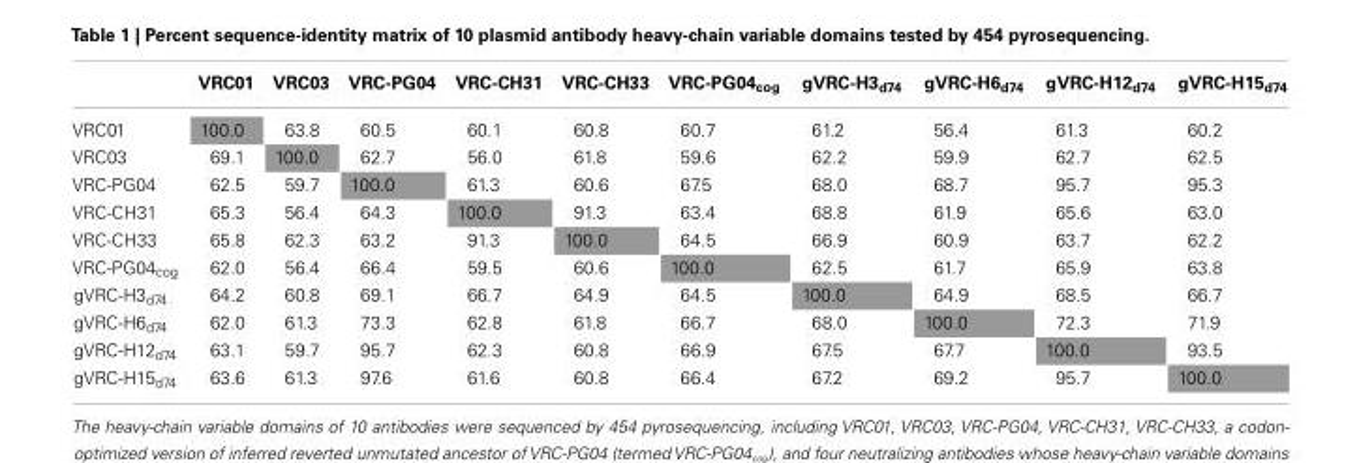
<table><thead><tr><td></td><td>VRC01</td><td>VRC03</td><td>VRC-PG04</td><td>VRC-CH31</td><td>VRC-CH33</td><td>VRC-PG04<sub>cog</sub></td><td>gVRC-H3<sub>d74</sub></td><td>gVRC-H6<sub>d74</sub></td><td>gVRC-H12<sub>d74</sub></td><td>gVRC-H15<sub>d74</sub></td></tr></thead><tbody><tr><td>VRC01</td><td>100.0</td><td>63.8</td><td>60.5</td><td>60.1</td><td>60.8</td><td>60.7</td><td>61.2</td><td>56.4</td><td>61.3</td><td>60.2</td></tr><tr><td>VRC03</td><td>69.1</td><td>100.0</td><td>62.7</td><td>56.0</td><td>61.8</td><td>59.6</td><td>62.2</td><td>59.9</td><td>62.7</td><td>62.5</td></tr><tr><td>VRC-PG04</td><td>62.5</td><td>59.7</td><td>100.0</td><td>61.3</td><td>60.6</td><td>67.5</td><td>68.0</td><td>68.7</td><td>95.7</td><td>95.3</td></tr><tr><td>VRC-CH31</td><td>65.3</td><td>56.4</td><td>64.3</td><td>100.0</td><td>91.3</td><td>63.4</td><td>68.8</td><td>61.9</td><td>65.6</td><td>63.0</td></tr><tr><td>VRC-CH33</td><td>65.8</td><td>62.3</td><td>63.2</td><td>91.3</td><td>100.0</td><td>64.5</td><td>66.9</td><td>60.9</td><td>63.7</td><td>62.2</td></tr><tr><td>VRC-PG04<sub>cog</sub></td><td>62.0</td><td>56.4</td><td>66.4</td><td>59.5</td><td>60.6</td><td>100.0</td><td>62.5</td><td>61.7</td><td>65.9</td><td>63.8</td></tr><tr><td>gVRC-H3<sub>d74</sub></td><td>64.2</td><td>60.8</td><td>69.1</td><td>66.7</td><td>64.9</td><td>64.5</td><td>100.0</td><td>64.9</td><td>68.5</td><td>66.7</td></tr><tr><td>gVRC-H6<sub>d74</sub></td><td>62.0</td><td>61.3</td><td>73.3</td><td>62.8</td><td>61.8</td><td>66.7</td><td>68.0</td><td>100.0</td><td>72.3</td><td>71.9</td></tr><tr><td>gVRC-H12<sub>d74</sub></td><td>63.1</td><td>59.7</td><td>95.7</td><td>62.3</td><td>60.8</td><td>66.9</td><td>67.5</td><td>67.7</td><td>100.0</td><td>93.5</td></tr><tr><td>gVRC-H15<sub>d74</sub></td><td>63.6</td><td>61.3</td><td>97.6</td><td>61.6</td><td>60.8</td><td>66.4</td><td>67.2</td><td>69.2</td><td>95.7</td><td>100.0</td></tr></tbody></table>